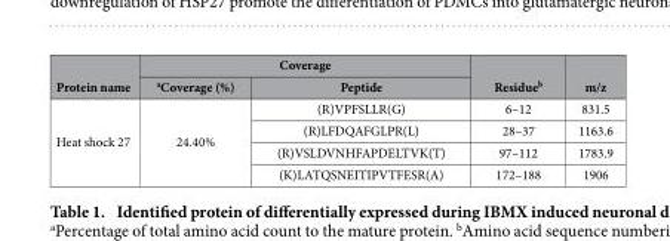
<table><thead><tr><td rowspan="2">Protein name</td><td colspan="2">Coverage</td><td rowspan="2">Residue<sup>b</sup></td><td rowspan="2">m/z</td></tr><tr><td>aCoverage (%)</td><td>Peptide</td></tr></thead><tbody><tr><td rowspan="4">Heat shock 27</td><td rowspan="4">24.40%</td><td>(R)VPFSLLR(G)</td><td>6–12</td><td>831.5</td></tr><tr><td>(R)LFDQAFGLPR(L)</td><td>28–37</td><td>1163.6</td></tr><tr><td>(R)VSLDVNHFAPDELTVK(T)</td><td>97–112</td><td>1783.9</td></tr><tr><td>(K)LATQSNEITIPVTFESR(A)</td><td>172–188</td><td>1906</td></tr></tbody></table>